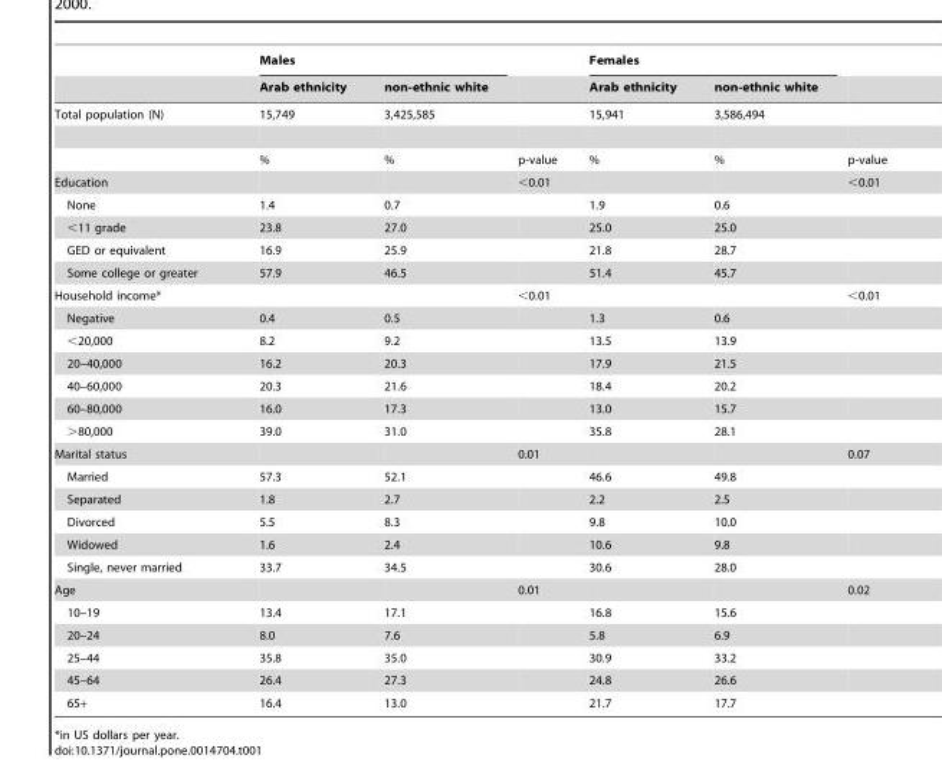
<table><thead><tr><td rowspan="2"></td><td colspan="2">Males</td><td rowspan="2"></td><td colspan="2">Females</td><td rowspan="2"></td></tr><tr><td>Arab ethnicity</td><td>non-ethnic white</td><td>Arab ethnicity</td><td>non-ethnic white</td></tr></thead><tbody><tr><td rowspan="2">Total population (N)</td><td>15,749</td><td>3,425,585</td><td></td><td>15,941</td><td>3,586,494</td><td></td></tr><tr><td>%</td><td>%</td><td>p-value</td><td>%</td><td>%</td><td>p-value</td></tr><tr><td>Education</td><td></td><td></td><td>&lt;0.01</td><td></td><td></td><td>&lt;0.01</td></tr><tr><td>None</td><td>1.4</td><td>0.7</td><td></td><td>1.9</td><td>0.6</td><td></td></tr><tr><td>&lt;11 grade</td><td>23.8</td><td>27.0</td><td></td><td>25.0</td><td>25.0</td><td></td></tr><tr><td>GED or equivalent</td><td>16.9</td><td>25.9</td><td></td><td>21.8</td><td>28.7</td><td></td></tr><tr><td>Some college or greater</td><td>57.9</td><td>46.5</td><td></td><td>51.4</td><td>45.7</td><td></td></tr><tr><td>Household income*</td><td></td><td></td><td>&lt;0.01</td><td></td><td></td><td>&lt;0.01</td></tr><tr><td>Negative</td><td>0.4</td><td>0.5</td><td></td><td>1.3</td><td>0.6</td><td></td></tr><tr><td>&lt;20,000</td><td>8.2</td><td>9.2</td><td></td><td>13.5</td><td>13.9</td><td></td></tr><tr><td>20–40,000</td><td>16.2</td><td>20.3</td><td></td><td>17.9</td><td>21.5</td><td></td></tr><tr><td>40–60,000</td><td>20.3</td><td>21.6</td><td></td><td>18.4</td><td>20.2</td><td></td></tr><tr><td>60–80,000</td><td>16.0</td><td>17.3</td><td></td><td>13.0</td><td>15.7</td><td></td></tr><tr><td>&gt;80,000</td><td>39.0</td><td>31.0</td><td></td><td>35.8</td><td>28.1</td><td></td></tr><tr><td>Marital status</td><td></td><td></td><td>0.01</td><td></td><td></td><td>0.07</td></tr><tr><td>Married</td><td>57.3</td><td>52.1</td><td></td><td>46.6</td><td>49.8</td><td></td></tr><tr><td>Separated</td><td>1.8</td><td>2.7</td><td></td><td>2.2</td><td>2.5</td><td></td></tr><tr><td>Divorced</td><td>5.5</td><td>8.3</td><td></td><td>9.8</td><td>10.0</td><td></td></tr><tr><td>Widowed</td><td>1.6</td><td>2.4</td><td></td><td>10.6</td><td>9.8</td><td></td></tr><tr><td>Single, never married</td><td>33.7</td><td>34.5</td><td></td><td>30.6</td><td>28.0</td><td></td></tr><tr><td>Age</td><td></td><td></td><td>0.01</td><td></td><td></td><td>0.02</td></tr><tr><td>10–19</td><td>13.4</td><td>17.1</td><td></td><td>16.8</td><td>15.6</td><td></td></tr><tr><td>20–24</td><td>8.0</td><td>7.6</td><td></td><td>5.8</td><td>6.9</td><td></td></tr><tr><td>25–44</td><td>35.8</td><td>35.0</td><td></td><td>30.9</td><td>33.2</td><td></td></tr><tr><td>45–64</td><td>26.4</td><td>27.3</td><td></td><td>24.8</td><td>26.6</td><td></td></tr><tr><td>65+</td><td>16.4</td><td>13.0</td><td></td><td>21.7</td><td>17.7</td><td></td></tr></tbody></table>